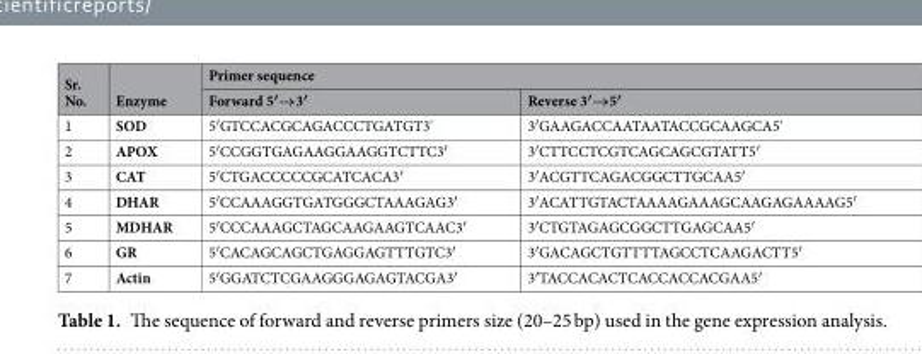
<table><thead><tr><td rowspan="2">Sr. No.</td><td rowspan="2">Enzyme</td><td colspan="2">Primer sequence</td></tr><tr><td>Forward 5′→3′</td><td>Reverse 3′→5′</td></tr></thead><tbody><tr><td>1</td><td>SOD</td><td>5′GTCCACGCAGACCCTGATGT3&#x27;</td><td>3′GAAGACCAATAATACCGCAAGCA5&#x27;</td></tr><tr><td>2</td><td>APOX</td><td>5′CCGGTGAGAAGGAAGGTCTTC3′</td><td>3′CTTCCTCGTCAGCAGCGTATT5′</td></tr><tr><td>3</td><td>CAT</td><td>5′CTGACCCCCGCATCACA3′</td><td>3′ACGTTCAGACGGCTTGCAA5′</td></tr><tr><td>4</td><td>DHAR</td><td>5′CCAAAGGTGATGGGCTAAAGAG3′</td><td>3′ACATTGTACTAAAAGAAAGCAAGAGAAAAG5′</td></tr><tr><td>5</td><td>MDHAR</td><td>5′CCCAAAGCTAGCAAGAAGTCAAC3′</td><td>3′CTGTAGAGCGGCTTGAGCAA5′</td></tr><tr><td>6</td><td>GR</td><td>5′CACAGCAGCTGAGGAGTTTGTC3′</td><td>3′GACAGCTGTTTTAGCCTCAAGACTT5′</td></tr><tr><td>7</td><td>Actin</td><td>5′GGATCTCGAAGGGAGAGTACGA3′</td><td>3′TACCACACTCACCACCACGAA5′</td></tr></tbody></table>